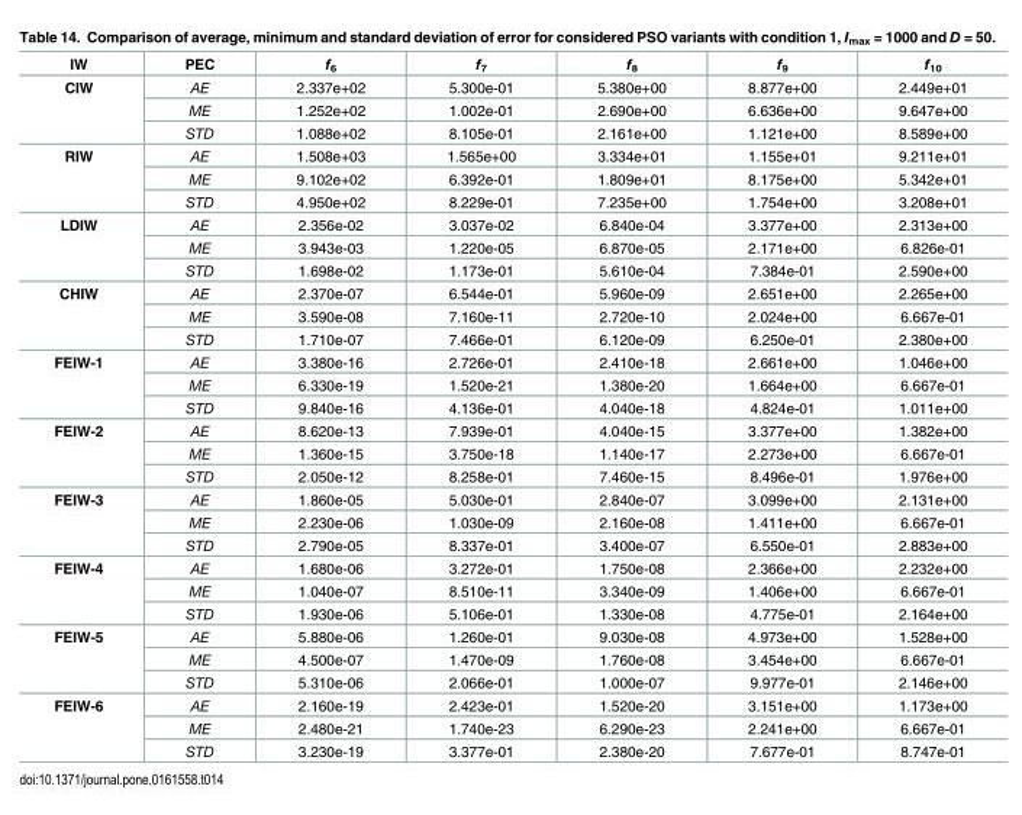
<table><thead><tr><td>IW</td><td>PEC</td><td>f<sub>6</sub></td><td>f<sub>7</sub></td><td>f<sub>8</sub></td><td>f<sub>9</sub></td><td>f<sub>10</sub></td></tr></thead><tbody><tr><td rowspan="3">CIW</td><td>AE</td><td>2.337e+02</td><td>5.300e-01</td><td>5.380e+00</td><td>8.877e+00</td><td>2.449e+01</td></tr><tr><td>ME</td><td>1.252e+02</td><td>1.002e-01</td><td>2.690e+00</td><td>6.636e+00</td><td>9.647e+00</td></tr><tr><td>STD</td><td>1.088e+02</td><td>8.105e-01</td><td>2.161e+00</td><td>1.121e+00</td><td>8.589e+00</td></tr><tr><td rowspan="3">RIW</td><td>AE</td><td>1.508e+03</td><td>1.565e+00</td><td>3.334e+01</td><td>1.155e+01</td><td>9.211e+01</td></tr><tr><td>ME</td><td>9.102e+02</td><td>6.392e-01</td><td>1.809e+01</td><td>8.175e+00</td><td>5.342e+01</td></tr><tr><td>STD</td><td>4.950e+02</td><td>8.229e-01</td><td>7.235e+00</td><td>1.754e+00</td><td>3.208e+01</td></tr><tr><td rowspan="3">LDIW</td><td>AE</td><td>2.356e-02</td><td>3.037e-02</td><td>6.840e-04</td><td>3.377e+00</td><td>2.313e+00</td></tr><tr><td>ME</td><td>3.943e-03</td><td>1.220e-05</td><td>6.870e-05</td><td>2.171e+00</td><td>6.826e-01</td></tr><tr><td>STD</td><td>1.698e-02</td><td>1.173e-01</td><td>5.610e-04</td><td>7.384e-01</td><td>2.590e+00</td></tr><tr><td rowspan="3">CHIW</td><td>AE</td><td>2.370e-07</td><td>6.544e-01</td><td>5.960e-09</td><td>2.651e+00</td><td>2.265e+00</td></tr><tr><td>ME</td><td>3.590e-08</td><td>7.160e-11</td><td>2.720e-10</td><td>2.024e+00</td><td>6.667e-01</td></tr><tr><td>STD</td><td>1.710e-07</td><td>7.466e-01</td><td>6.120e-09</td><td>6.250e-01</td><td>2.380e+00</td></tr><tr><td rowspan="3">FEIW-1</td><td>AE</td><td>3.380e-16</td><td>2.726e-01</td><td>2.410e-18</td><td>2.661e+00</td><td>1.046e+00</td></tr><tr><td>ME</td><td>6.330e-19</td><td>1.520e-21</td><td>1.380e-20</td><td>1.664e+00</td><td>6.667e-01</td></tr><tr><td>STD</td><td>9.840e-16</td><td>4.136e-01</td><td>4.040e-18</td><td>4.824e-01</td><td>1.011e+00</td></tr><tr><td rowspan="3">FEIW-2</td><td>AE</td><td>8.620e-13</td><td>7.939e-01</td><td>4.040e-15</td><td>3.377e+00</td><td>1.382e+00</td></tr><tr><td>ME</td><td>1.360e-15</td><td>3.750e-18</td><td>1.140e-17</td><td>2.273e+00</td><td>6.667e-01</td></tr><tr><td>STD</td><td>2.050e-12</td><td>8.258e-01</td><td>7.460e-15</td><td>8.496e-01</td><td>1.976e+00</td></tr><tr><td rowspan="3">FEIW-3</td><td>AE</td><td>1.860e-05</td><td>5.030e-01</td><td>2.840e-07</td><td>3.099e+00</td><td>2.131e+00</td></tr><tr><td>ME</td><td>2.230e-06</td><td>1.030e-09</td><td>2.160e-08</td><td>1.411e+00</td><td>6.667e-01</td></tr><tr><td>STD</td><td>2.790e-05</td><td>8.337e-01</td><td>3.400e-07</td><td>6.550e-01</td><td>2.883e+00</td></tr><tr><td rowspan="3">FEIW-4</td><td>AE</td><td>1.680e-06</td><td>3.272e-01</td><td>1.750e-08</td><td>2.366e+00</td><td>2.232e+00</td></tr><tr><td>ME</td><td>1.040e-07</td><td>8.510e-11</td><td>3.340e-09</td><td>1.406e+00</td><td>6.667e-01</td></tr><tr><td>STD</td><td>1.930e-06</td><td>5.106e-01</td><td>1.330e-08</td><td>4.775e-01</td><td>2.164e+00</td></tr><tr><td rowspan="3">FEIW-5</td><td>AE</td><td>5.880e-06</td><td>1.260e-01</td><td>9.030e-08</td><td>4.973e+00</td><td>1.528e+00</td></tr><tr><td>ME</td><td>4.500e-07</td><td>1.470e-09</td><td>1.760e-08</td><td>3.454e+00</td><td>6.667e-01</td></tr><tr><td>STD</td><td>5.310e-06</td><td>2.066e-01</td><td>1.000e-07</td><td>9.977e-01</td><td>2.146e+00</td></tr><tr><td rowspan="3">FEIW-6</td><td>AE</td><td>2.160e-19</td><td>2.423e-01</td><td>1.520e-20</td><td>3.151e+00</td><td>1.173e+00</td></tr><tr><td>ME</td><td>2.480e-21</td><td>1.740e-23</td><td>6.290e-23</td><td>2.241e+00</td><td>6.667e-01</td></tr><tr><td>STD</td><td>3.230e-19</td><td>3.377e-01</td><td>2.380e-20</td><td>7.677e-01</td><td>8.747e-01</td></tr></tbody></table>